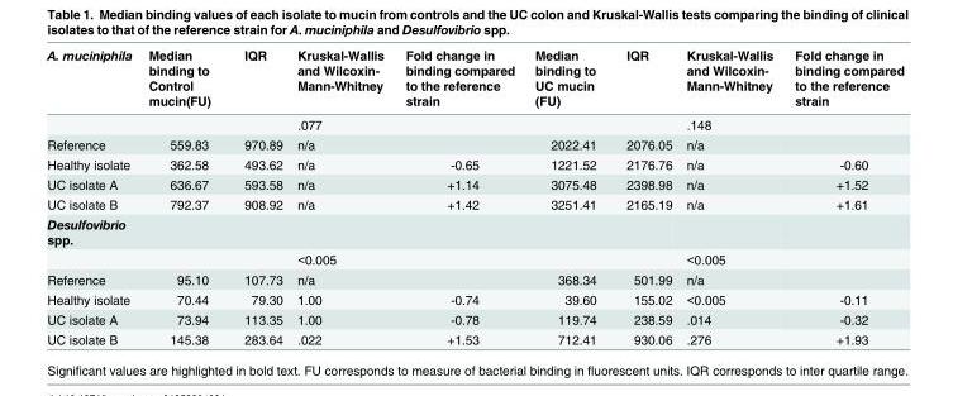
<table><thead><tr><td>A. muciniphila</td><td>Median binding to Control mucin(FU)</td><td>IQR</td><td>Kruskal-Wallis and Wilcoxin- Mann-Whitney</td><td>Fold change in binding compared to the reference strain</td><td>Median binding to UC mucin (FU)</td><td>IQR</td><td>Kruskal-Wallis and Wilcoxin- Mann-Whitney</td><td>Fold change in binding compared to the reference strain</td></tr></thead><tbody><tr><td></td><td></td><td></td><td>.077</td><td></td><td></td><td></td><td>.148</td><td></td></tr><tr><td>Reference</td><td>559.83</td><td>970.89</td><td>n/a</td><td></td><td>2022.41</td><td>2076.05</td><td>n/a</td><td></td></tr><tr><td>Healthy isolate</td><td>362.58</td><td>493.62</td><td>n/a</td><td>-0.65</td><td>1221.52</td><td>2176.76</td><td>n/a</td><td>-0.60</td></tr><tr><td>UC isolate A</td><td>636.67</td><td>593.58</td><td>n/a</td><td>+1.14</td><td>3075.48</td><td>2398.98</td><td>n/a</td><td>+1.52</td></tr><tr><td>UC isolate B</td><td>792.37</td><td>908.92</td><td>n/a</td><td>+1.42</td><td>3251.41</td><td>2165.19</td><td>n/a</td><td>+1.61</td></tr><tr><td colspan="9">Desulfovibrio spp.</td></tr><tr><td></td><td></td><td></td><td>&lt;0.005</td><td></td><td></td><td></td><td>&lt;0.005</td><td></td></tr><tr><td>Reference</td><td>95.10</td><td>107.73</td><td>n/a</td><td></td><td>368.34</td><td>501.99</td><td>n/a</td><td></td></tr><tr><td>Healthy isolate</td><td>70.44</td><td>79.30</td><td>1.00</td><td>-0.74</td><td>39.60</td><td>155.02</td><td>&lt;0.005</td><td>-0.11</td></tr><tr><td>UC isolate A</td><td>73.94</td><td>113.35</td><td>1.00</td><td>-0.78</td><td>119.74</td><td>238.59</td><td>.014</td><td>-0.32</td></tr><tr><td>UC isolate B</td><td>145.38</td><td>283.64</td><td>.022</td><td>+1.53</td><td>712.41</td><td>930.06</td><td>.276</td><td>+1.93</td></tr></tbody></table>